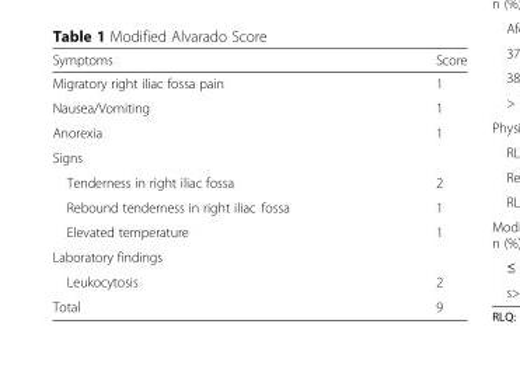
<table><thead><tr><td>Symptoms</td><td>Score</td></tr></thead><tbody><tr><td>Migratory right iliac fossa pain</td><td>1</td></tr><tr><td>Nausea/Vomiting</td><td>1</td></tr><tr><td>Anorexia</td><td>1</td></tr><tr><td colspan="2">Signs</td></tr><tr><td>Tenderness in right iliac fossa</td><td>2</td></tr><tr><td>Rebound tenderness in right iliac fossa</td><td>1</td></tr><tr><td>Elevated temperature</td><td>1</td></tr><tr><td colspan="2">Laboratory findings</td></tr><tr><td>Leukocytosis</td><td>2</td></tr><tr><td>Total</td><td>9</td></tr></tbody></table>